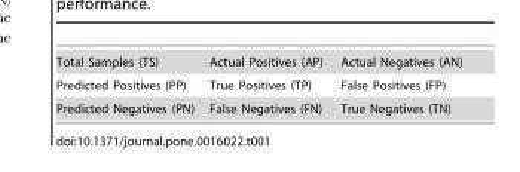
<table><tbody><tr><td>Total Samples (TS)</td><td>Actual Positives (AP)</td><td>Actual Negatives (AN)</td></tr><tr><td>Predicted Positives (PP)</td><td>True Positives (TP)</td><td>False Positives (FP)</td></tr><tr><td>Predicted Negatives (PN)</td><td>False Negatives (FN)</td><td>True Negatives (TN)</td></tr></tbody></table>